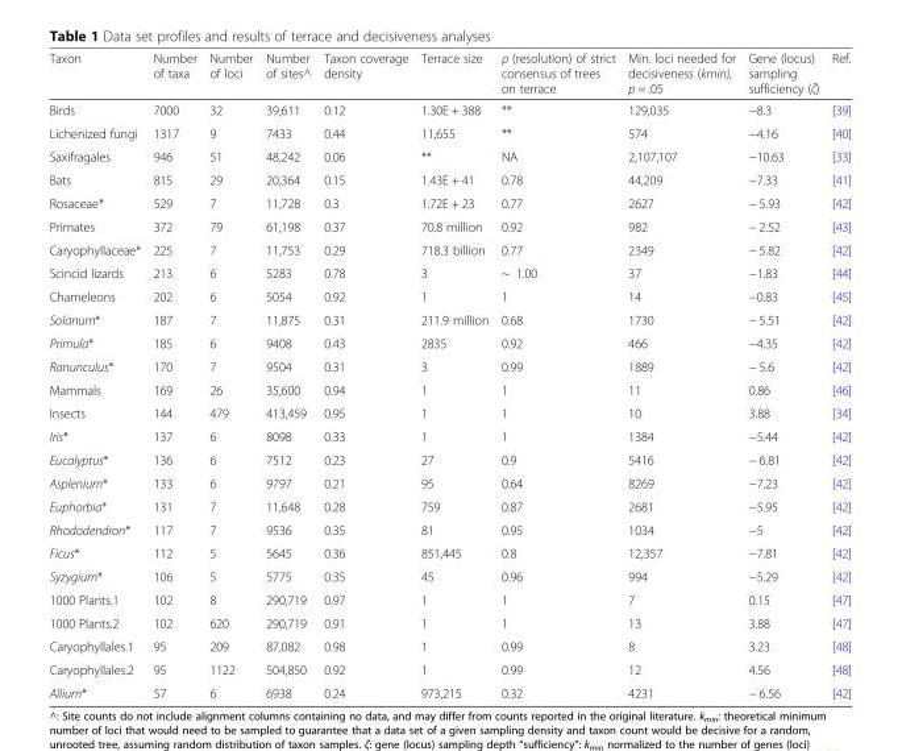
<table><thead><tr><td>Taxon</td><td>Number of taxa</td><td>Number of loci</td><td>Number of sites^</td><td>Taxon coverage density</td><td>Terrace size</td><td>ρ (resolution) of strict consensus of trees on terrace</td><td>Min. loci needed for decisiveness (kmin), p = .05</td><td>Gene (locus) sampling sufficiency (ζ)</td><td>Ref.</td></tr></thead><tbody><tr><td>Birds</td><td>7000</td><td>32</td><td>39,611</td><td>0.12</td><td>1.30E + 388</td><td>**</td><td>129,035</td><td>−8.3</td><td>[39]</td></tr><tr><td>Lichenized fungi</td><td>1317</td><td>9</td><td>7433</td><td>0.44</td><td>11,655</td><td>**</td><td>574</td><td>−4.16</td><td>[40]</td></tr><tr><td>Saxifragales</td><td>946</td><td>51</td><td>48,242</td><td>0.06</td><td>**</td><td>NA</td><td>2,107,107</td><td>−10.63</td><td>[33]</td></tr><tr><td>Bats</td><td>815</td><td>29</td><td>20,364</td><td>0.15</td><td>1.43E + 41</td><td>0.78</td><td>44,209</td><td>−7.33</td><td>[41]</td></tr><tr><td>Rosaceae*</td><td>529</td><td>7</td><td>11,728</td><td>0.3</td><td>1.72E + 23</td><td>0.77</td><td>2627</td><td>− 5.93</td><td>[42]</td></tr><tr><td>Primates</td><td>372</td><td>79</td><td>61,198</td><td>0.37</td><td>70.8 million</td><td>0.92</td><td>982</td><td>− 2.52</td><td>[43]</td></tr><tr><td>Caryophyllaceae*</td><td>225</td><td>7</td><td>11,753</td><td>0.29</td><td>718.3 billion</td><td>0.77</td><td>2349</td><td>− 5.82</td><td>[42]</td></tr><tr><td>Scincid lizards</td><td>213</td><td>6</td><td>5283</td><td>0.78</td><td>3</td><td>~ 1.00</td><td>37</td><td>−1.83</td><td>[44]</td></tr><tr><td>Chameleons</td><td>202</td><td>6</td><td>5054</td><td>0.92</td><td>1</td><td>1</td><td>14</td><td>−0.83</td><td>[45]</td></tr><tr><td>Solanum*</td><td>187</td><td>7</td><td>11,875</td><td>0.31</td><td>211.9 million</td><td>0.68</td><td>1730</td><td>− 5.51</td><td>[42]</td></tr><tr><td>Primula*</td><td>185</td><td>6</td><td>9408</td><td>0.43</td><td>2835</td><td>0.92</td><td>466</td><td>−4.35</td><td>[42]</td></tr><tr><td>Ranunculus*</td><td>170</td><td>7</td><td>9504</td><td>0.31</td><td>3</td><td>0.99</td><td>1889</td><td>− 5.6</td><td>[42]</td></tr><tr><td>Mammals</td><td>169</td><td>26</td><td>35,600</td><td>0.94</td><td>1</td><td>1</td><td>11</td><td>0.86</td><td>[46]</td></tr><tr><td>Insects</td><td>144</td><td>479</td><td>413,459</td><td>0.95</td><td>1</td><td>1</td><td>10</td><td>3.88</td><td>[34]</td></tr><tr><td>Iris*</td><td>137</td><td>6</td><td>8098</td><td>0.33</td><td>1</td><td>1</td><td>1384</td><td>−5.44</td><td>[42]</td></tr><tr><td>Eucalyptus*</td><td>136</td><td>6</td><td>7512</td><td>0.23</td><td>27</td><td>0.9</td><td>5416</td><td>− 6.81</td><td>[42]</td></tr><tr><td>Asplenium*</td><td>133</td><td>6</td><td>9797</td><td>0.21</td><td>95</td><td>0.64</td><td>8269</td><td>−7.23</td><td>[42]</td></tr><tr><td>Euphorbia*</td><td>131</td><td>7</td><td>11,648</td><td>0.28</td><td>759</td><td>0.87</td><td>2681</td><td>−5.95</td><td>[42]</td></tr><tr><td>Rhododendron*</td><td>117</td><td>7</td><td>9536</td><td>0.35</td><td>81</td><td>0.95</td><td>1034</td><td>−5</td><td>[42]</td></tr><tr><td>Ficus*</td><td>112</td><td>5</td><td>5645</td><td>0.36</td><td>851,445</td><td>0.8</td><td>12,357</td><td>−7.81</td><td>[42]</td></tr><tr><td>Syzygium*</td><td>106</td><td>5</td><td>5775</td><td>0.35</td><td>45</td><td>0.96</td><td>994</td><td>−5.29</td><td>[42]</td></tr><tr><td>1000 Plants.1</td><td>102</td><td>8</td><td>290,719</td><td>0.97</td><td>1</td><td>1</td><td>7</td><td>0.15</td><td>[47]</td></tr><tr><td>1000 Plants.2</td><td>102</td><td>620</td><td>290,719</td><td>0.91</td><td>1</td><td>1</td><td>13</td><td>3.88</td><td>[47]</td></tr><tr><td>Caryophyllales.1</td><td>95</td><td>209</td><td>87,082</td><td>0.98</td><td>1</td><td>0.99</td><td>8</td><td>3.23</td><td>[48]</td></tr><tr><td>Caryophyllales.2</td><td>95</td><td>1122</td><td>504,850</td><td>0.92</td><td>1</td><td>0.99</td><td>12</td><td>4.56</td><td>[48]</td></tr><tr><td>Allium*</td><td>57</td><td>6</td><td>6938</td><td>0.24</td><td>973,215</td><td>0.32</td><td>4231</td><td>− 6.56</td><td>[42]</td></tr></tbody></table>